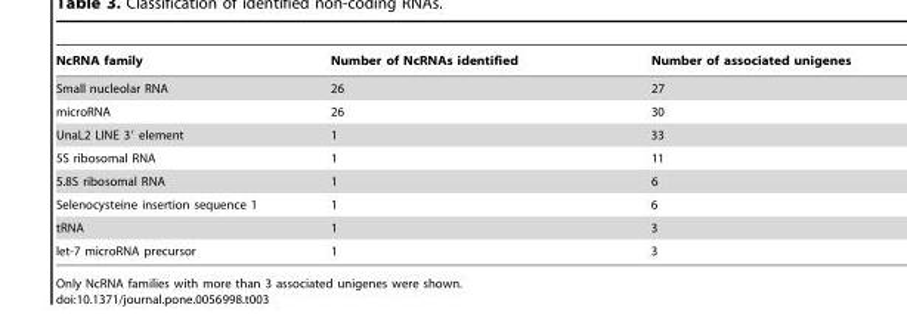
<table><thead><tr><td>NcRNA family</td><td>Number of NcRNAs identified</td><td>Number of associated unigenes</td></tr></thead><tbody><tr><td>Small nucleolar RNA</td><td>26</td><td>27</td></tr><tr><td>microRNA</td><td>26</td><td>30</td></tr><tr><td>UnaL2 LINE 3′ element</td><td>1</td><td>33</td></tr><tr><td>5S ribosomal RNA</td><td>1</td><td>11</td></tr><tr><td>5.8S ribosomal RNA</td><td>1</td><td>6</td></tr><tr><td>Selenocysteine insertion sequence 1</td><td>1</td><td>6</td></tr><tr><td>tRNA</td><td>1</td><td>3</td></tr><tr><td>let-7 microRNA precursor</td><td>1</td><td>3</td></tr></tbody></table>